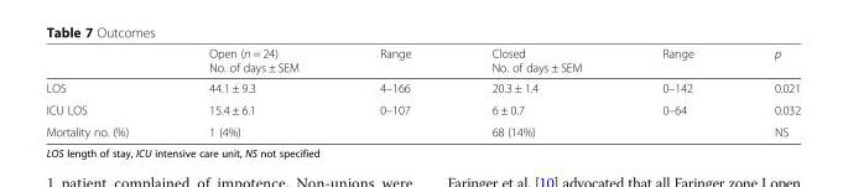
<table><thead><tr><td></td><td>Open (n = 24) No. of days ± SEM</td><td>Range</td><td>Closed No. of days ± SEM</td><td>Range</td><td>p</td></tr></thead><tbody><tr><td>LOS</td><td>44.1 ± 9.3</td><td>4–166</td><td>20.3 ± 1.4</td><td>0–142</td><td>0.021</td></tr><tr><td>ICU LOS</td><td>15.4 ± 6.1</td><td>0–107</td><td>6 ± 0.7</td><td>0–64</td><td>0.032</td></tr><tr><td>Mortality no. (%)</td><td>1 (4%)</td><td></td><td>68 (14%)</td><td></td><td>NS</td></tr></tbody></table>